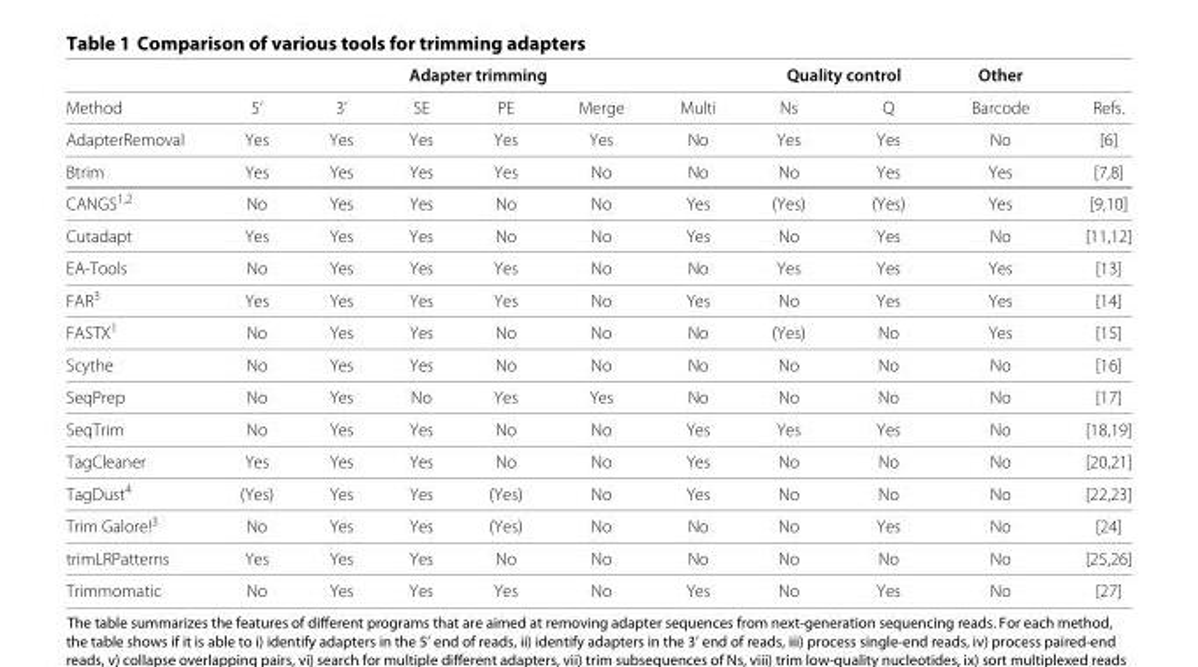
<table><thead><tr><td rowspan="2">Method</td><td rowspan="2">5’</td><td colspan="4">Adapter trimming</td><td rowspan="2">Multi</td><td colspan="2">Quality control</td><td rowspan="2">Other Barcode</td><td rowspan="2">Refs.</td></tr><tr><td>3’</td><td>SE</td><td>PE</td><td>Merge</td><td>Ns</td><td>Q</td></tr></thead><tbody><tr><td>AdapterRemoval</td><td>Yes</td><td>Yes</td><td>Yes</td><td>Yes</td><td>Yes</td><td>No</td><td>Yes</td><td>Yes</td><td>No</td><td>[6]</td></tr><tr><td>Btrim</td><td>Yes</td><td>Yes</td><td>Yes</td><td>Yes</td><td>No</td><td>No</td><td>No</td><td>Yes</td><td>Yes</td><td>[7,8]</td></tr><tr><td><sup>CANGS1,2</sup></td><td>No</td><td>Yes</td><td>Yes</td><td>No</td><td>No</td><td>Yes</td><td>(Yes)</td><td>(Yes)</td><td>Yes</td><td>[9,10]</td></tr><tr><td>Cutadapt</td><td>Yes</td><td>Yes</td><td>Yes</td><td>No</td><td>No</td><td>Yes</td><td>No</td><td>Yes</td><td>No</td><td>[11,12]</td></tr><tr><td>EA-Tools</td><td>No</td><td>Yes</td><td>Yes</td><td>Yes</td><td>No</td><td>No</td><td>Yes</td><td>Yes</td><td>Yes</td><td>[13]</td></tr><tr><td>FAR<sup>3</sup></td><td>Yes</td><td>Yes</td><td>Yes</td><td>Yes</td><td>No</td><td>Yes</td><td>No</td><td>Yes</td><td>Yes</td><td>[14]</td></tr><tr><td>FASTX<sup>1</sup></td><td>No</td><td>Yes</td><td>Yes</td><td>No</td><td>No</td><td>No</td><td>(Yes)</td><td>No</td><td>Yes</td><td>[15]</td></tr><tr><td>Scythe</td><td>No</td><td>Yes</td><td>Yes</td><td>No</td><td>No</td><td>No</td><td>No</td><td>No</td><td>No</td><td>[16]</td></tr><tr><td>SeqPrep</td><td>No</td><td>Yes</td><td>No</td><td>Yes</td><td>Yes</td><td>No</td><td>No</td><td>No</td><td>No</td><td>[17]</td></tr><tr><td>SeqTrim</td><td>No</td><td>Yes</td><td>Yes</td><td>No</td><td>No</td><td>Yes</td><td>Yes</td><td>Yes</td><td>No</td><td>[18,19]</td></tr><tr><td>TagCleaner</td><td>Yes</td><td>Yes</td><td>Yes</td><td>No</td><td>No</td><td>Yes</td><td>No</td><td>No</td><td>No</td><td>[20,21]</td></tr><tr><td>TagDust<sup>4</sup></td><td>(Yes)</td><td>Yes</td><td>Yes</td><td>(Yes)</td><td>No</td><td>Yes</td><td>No</td><td>No</td><td>No</td><td>[22,23]</td></tr><tr><td>Trim Galore!<sup>3</sup></td><td>No</td><td>Yes</td><td>Yes</td><td>(Yes)</td><td>No</td><td>No</td><td>No</td><td>Yes</td><td>No</td><td>[24]</td></tr><tr><td>trimLRPatterns</td><td>Yes</td><td>Yes</td><td>Yes</td><td>No</td><td>No</td><td>No</td><td>No</td><td>No</td><td>No</td><td>[25,26]</td></tr><tr><td>Trimmomatic</td><td>No</td><td>Yes</td><td>Yes</td><td>Yes</td><td>No</td><td>Yes</td><td>No</td><td>Yes</td><td>No</td><td>[27]</td></tr></tbody></table>